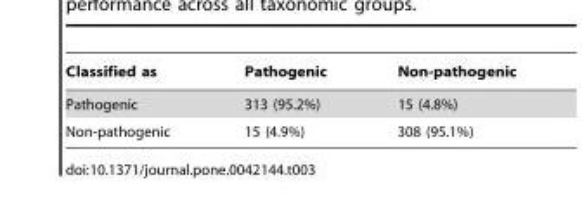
<table><thead><tr><td>Classified as</td><td>Pathogenic</td><td>Non-pathogenic</td></tr></thead><tbody><tr><td>Pathogenic</td><td>313 (95.2%)</td><td>15 (4.8%)</td></tr><tr><td>Non-pathogenic</td><td>15 (4.9%)</td><td>308 (95.1%)</td></tr></tbody></table>